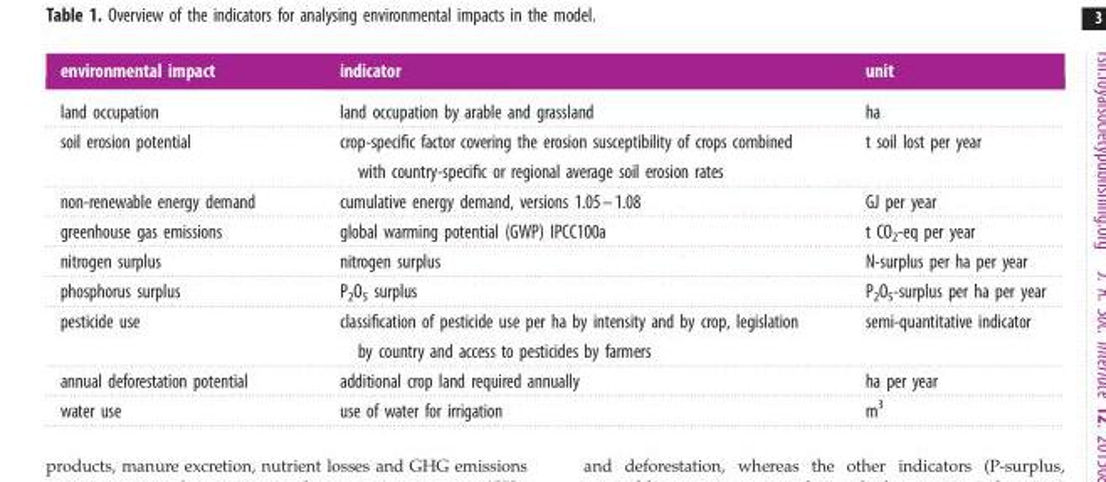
<table><thead><tr><td>environmental impact</td><td>indicator</td><td>unit</td></tr></thead><tbody><tr><td>land occupation</td><td>land occupation by arable and grassland</td><td>ha</td></tr><tr><td>soil erosion potential</td><td>crop-specific factor covering the erosion susceptibility of crops combined with country-specific or regional average soil erosion rates</td><td>t soil lost per year</td></tr><tr><td>non-renewable energy demand</td><td>cumulative energy demand, versions 1.05–1.08</td><td>GJ per year</td></tr><tr><td>greenhouse gas emissions</td><td>global warming potential (GWP) IPCC100a</td><td>t CO<sub>2</sub>-eq per year</td></tr><tr><td>nitrogen surplus</td><td>nitrogen surplus</td><td>N-surplus per ha per year</td></tr><tr><td>phosphorus surplus</td><td>P<sub>2</sub>O<sub>5</sub> surplus</td><td>P<sub>2</sub>O<sub>5</sub>-surplus per ha per year</td></tr><tr><td>pesticide use</td><td>classification of pesticide use per ha by intensity and by crop, legislation by country and access to pesticides by farmers</td><td>semi-quantitative indicator</td></tr><tr><td>annual deforestation potential</td><td>additional crop land required annually</td><td>ha per year</td></tr><tr><td>water use</td><td>use of water for irrigation</td><td>m<sup>3</sup></td></tr></tbody></table>